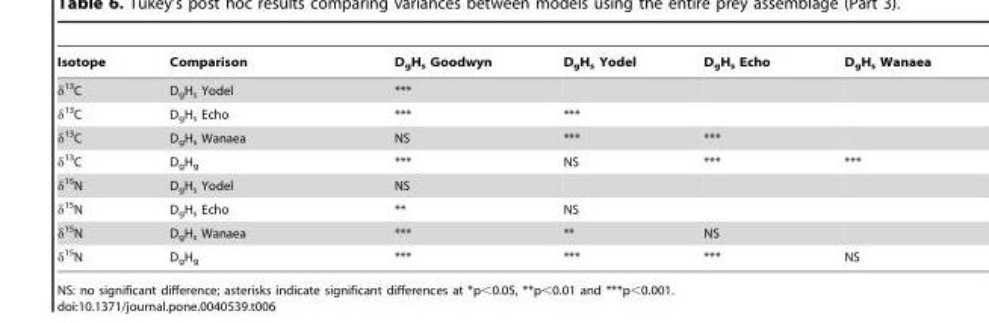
<table><thead><tr><td>Isotope</td><td>Comparison</td><td>D<sub>g</sub>H<sub>s</sub> Goodwyn</td><td>D<sub>g</sub>H<sub>s</sub> Yodel</td><td>D<sub>g</sub>H<sub>s</sub> Echo</td><td>D<sub>g</sub>H<sub>s</sub> Wanaea</td></tr></thead><tbody><tr><td>δ<sup>13</sup>C</td><td>D<sub>g</sub>H<sub>s</sub> Yodel</td><td>***</td><td></td><td></td><td></td></tr><tr><td>δ<sup>13</sup>C</td><td>D<sub>g</sub>H<sub>s</sub> Echo</td><td>***</td><td>***</td><td></td><td></td></tr><tr><td>δ<sup>13</sup>C</td><td>D<sub>g</sub>H<sub>s</sub> Wanaea</td><td>NS</td><td>***</td><td>***</td><td></td></tr><tr><td>δ<sup>13</sup>C</td><td>D<sub>g</sub>H<sub>g</sub></td><td>***</td><td>NS</td><td>***</td><td>***</td></tr><tr><td>δ<sup>15</sup>N</td><td>D<sub>g</sub>H<sub>s</sub> Yodel</td><td>NS</td><td></td><td></td><td></td></tr><tr><td>δ<sup>15</sup>N</td><td>D<sub>g</sub>H<sub>s</sub> Echo</td><td>**</td><td>NS</td><td></td><td></td></tr><tr><td>δ<sup>15</sup>N</td><td>D<sub>g</sub>H<sub>s</sub> Wanaea</td><td>***</td><td>**</td><td>NS</td><td></td></tr><tr><td>δ<sup>15</sup>N</td><td>D<sub>g</sub>H<sub>g</sub></td><td>***</td><td>***</td><td>***</td><td>NS</td></tr></tbody></table>